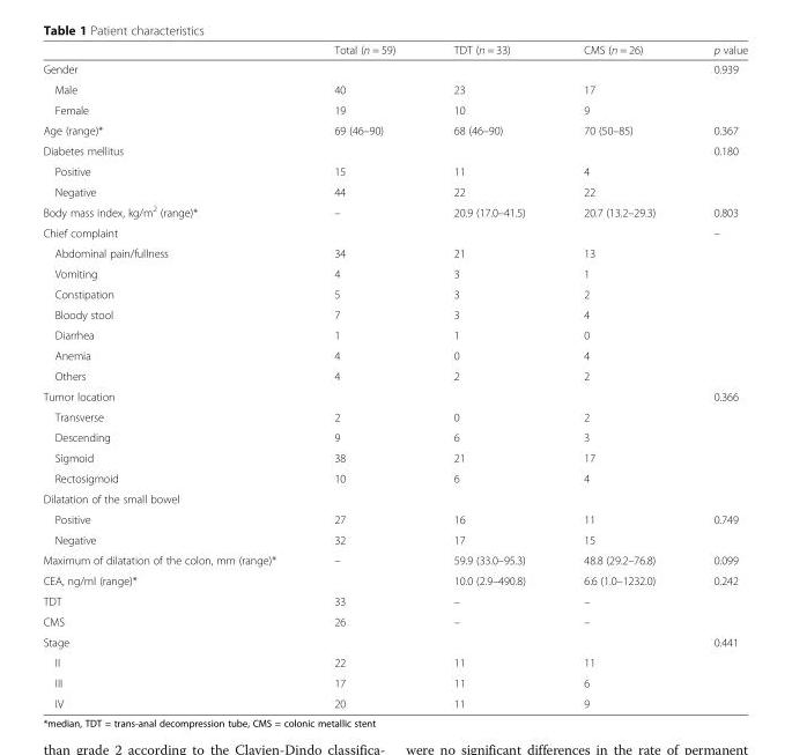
<table><thead><tr><td></td><td>Total (n = 59)</td><td>TDT (n = 33)</td><td>CMS (n = 26)</td><td>p value</td></tr></thead><tbody><tr><td colspan="4">Gender</td><td>0.939</td></tr><tr><td>Male</td><td>40</td><td>23</td><td>17</td><td></td></tr><tr><td>Female</td><td>19</td><td>10</td><td>9</td><td></td></tr><tr><td>Age (range)*</td><td>69 (46–90)</td><td>68 (46–90)</td><td>70 (50–85)</td><td>0.367</td></tr><tr><td colspan="4">Diabetes mellitus</td><td>0.180</td></tr><tr><td>Positive</td><td>15</td><td>11</td><td>4</td><td></td></tr><tr><td>Negative</td><td>44</td><td>22</td><td>22</td><td></td></tr><tr><td>Body mass index, kg/m<sup>2</sup> (range)*</td><td>–</td><td>20.9 (17.0–41.5)</td><td>20.7 (13.2–29.3)</td><td>0.803</td></tr><tr><td colspan="4">Chief complaint</td><td>–</td></tr><tr><td>Abdominal pain/fullness</td><td>34</td><td>21</td><td>13</td><td></td></tr><tr><td>Vomiting</td><td>4</td><td>3</td><td>1</td><td></td></tr><tr><td>Constipation</td><td>5</td><td>3</td><td>2</td><td></td></tr><tr><td>Bloody stool</td><td>7</td><td>3</td><td>4</td><td></td></tr><tr><td>Diarrhea</td><td>1</td><td>1</td><td>0</td><td></td></tr><tr><td>Anemia</td><td>4</td><td>0</td><td>4</td><td></td></tr><tr><td>Others</td><td>4</td><td>2</td><td>2</td><td></td></tr><tr><td colspan="4">Tumor location</td><td>0.366</td></tr><tr><td>Transverse</td><td>2</td><td>0</td><td>2</td><td></td></tr><tr><td>Descending</td><td>9</td><td>6</td><td>3</td><td></td></tr><tr><td>Sigmoid</td><td>38</td><td>21</td><td>17</td><td></td></tr><tr><td>Rectosigmoid</td><td>10</td><td>6</td><td>4</td><td></td></tr><tr><td colspan="5">Dilatation of the small bowel</td></tr><tr><td>Positive</td><td>27</td><td>16</td><td>11</td><td>0.749</td></tr><tr><td>Negative</td><td>32</td><td>17</td><td>15</td><td></td></tr><tr><td>Maximum of dilatation of the colon, mm (range)*</td><td>–</td><td>59.9 (33.0–95.3)</td><td>48.8 (29.2–76.8)</td><td>0.099</td></tr><tr><td>CEA, ng/ml (range)*</td><td></td><td>10.0 (2.9–490.8)</td><td>6.6 (1.0–1232.0)</td><td>0.242</td></tr><tr><td>TDT</td><td>33</td><td>–</td><td>–</td><td></td></tr><tr><td>CMS</td><td>26</td><td>–</td><td>–</td><td></td></tr><tr><td colspan="4">Stage</td><td>0.441</td></tr><tr><td>II</td><td>22</td><td>11</td><td>11</td><td></td></tr><tr><td>III</td><td>17</td><td>11</td><td>6</td><td></td></tr><tr><td>IV</td><td>20</td><td>11</td><td>9</td><td></td></tr></tbody></table>